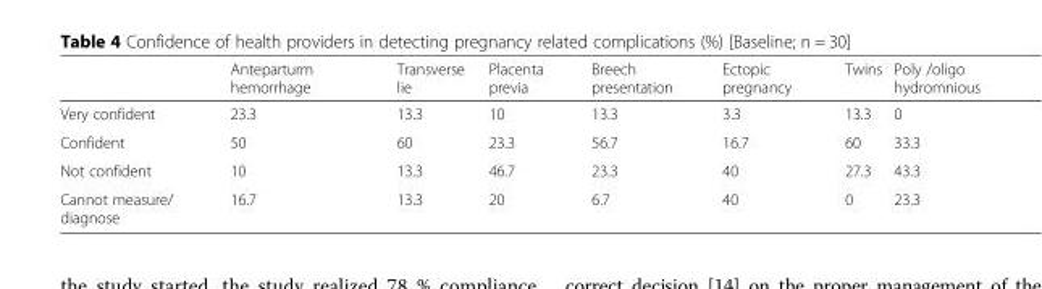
<table><thead><tr><td></td><td>Anteparturm hemorrhage</td><td>Transverse lie</td><td>Placenta previa</td><td>Breech presentation</td><td>Ectopic pregnancy</td><td>Twins</td><td>Poly /oligo hydromnious</td></tr></thead><tbody><tr><td>Very confident</td><td>23.3</td><td>13.3</td><td>10</td><td>13.3</td><td>3.3</td><td>13.3</td><td>0</td></tr><tr><td>Confident</td><td>50</td><td>60</td><td>23.3</td><td>56.7</td><td>16.7</td><td>60</td><td>33.3</td></tr><tr><td>Not confident</td><td>10</td><td>13.3</td><td>46.7</td><td>23.3</td><td>40</td><td>27.3</td><td>43.3</td></tr><tr><td>Cannot measure/ diagnose</td><td>16.7</td><td>13.3</td><td>20</td><td>6.7</td><td>40</td><td>0</td><td>23.3</td></tr></tbody></table>